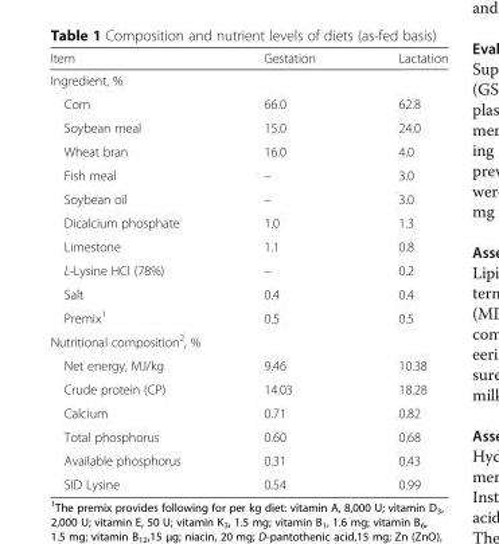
<table><thead><tr><td>Item</td><td>Gestation</td><td>Lactation</td></tr></thead><tbody><tr><td colspan="3">Ingredient, %</td></tr><tr><td>Corn</td><td>66.0</td><td>62.8</td></tr><tr><td>Soybean meal</td><td>15.0</td><td>24.0</td></tr><tr><td>Wheat bran</td><td>16.0</td><td>4.0</td></tr><tr><td>Fish meal</td><td>–</td><td>3.0</td></tr><tr><td>Soybean oil</td><td>–</td><td>3.0</td></tr><tr><td>Dicalcium phosphate</td><td>1.0</td><td>1.3</td></tr><tr><td>Limestone</td><td>1.1</td><td>0.8</td></tr><tr><td>L-Lysine HCl (78%)</td><td>–</td><td>0.2</td></tr><tr><td>Salt</td><td>0.4</td><td>0.4</td></tr><tr><td>Premix<sup>1</sup></td><td>0.5</td><td>0.5</td></tr><tr><td colspan="3">Nutritional composition<sup>2</sup>, %</td></tr><tr><td>Net energy, MJ/kg</td><td>9.46</td><td>10.38</td></tr><tr><td>Crude protein (CP)</td><td>14.03</td><td>18.28</td></tr><tr><td>Calcium</td><td>0.71</td><td>0.82</td></tr><tr><td>Total phosphorus</td><td>0.60</td><td>0.68</td></tr><tr><td>Available phosphorus</td><td>0.31</td><td>0.43</td></tr><tr><td>SID Lysine</td><td>0.54</td><td>0.99</td></tr></tbody></table>